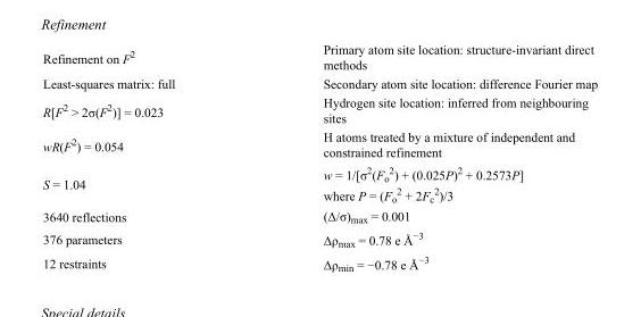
<table><tbody><tr><td>Refinement on F<sup>2</sup></td><td>Primary atom site location: structure-invariant direct methods</td></tr><tr><td>Least-squares matrix: full</td><td>Secondary atom site location: difference Fourier map</td></tr><tr><td>R[F<sup>2</sup> &gt; 2σ(F<sup>2</sup>)] = 0.023</td><td>Hydrogen site location: inferred from neighbouring sites</td></tr><tr><td>wR(F<sup>2</sup>) = 0.054</td><td>H atoms treated by a mixture of independent and constrained refinement</td></tr><tr><td>S = 1.04</td><td>w = 1/[σ<sup>2</sup>(F<sub>o</sub> <sup>2</sup>) + (0.025P)<sup>2</sup> + 0.2573P] where P = (F<sub>o</sub> <sup>2</sup> + 2F<sub>c</sub> <sup>2</sup>)/3</td></tr><tr><td>3640 reflections</td><td>(Δ/σ)<sub>max</sub> = 0.001</td></tr><tr><td>376 parameters</td><td>Δρ<sub>max</sub> = 0.78 e Å<sup>−3</sup></td></tr><tr><td>12 restraints</td><td>Δρ<sub>min</sub> = −0.78 e Å<sup>−3</sup></td></tr></tbody></table>